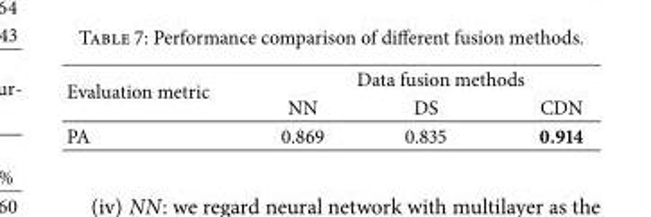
<table><thead><tr><td rowspan="2">Evaluation metric</td><td colspan="3">Data fusion methods</td></tr><tr><td>NN</td><td>DS</td><td>CDN</td></tr></thead><tbody><tr><td>PA</td><td>0.869</td><td>0.835</td><td>0.914</td></tr></tbody></table>